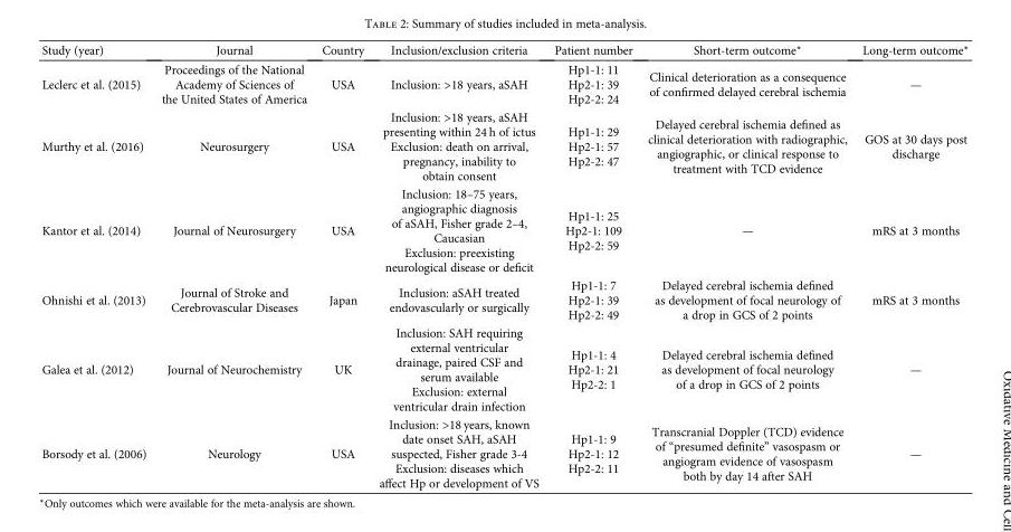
<table><thead><tr><td>Study (year)</td><td>Journal</td><td>Country</td><td>Inclusion/exclusion criteria</td><td>Patient number</td><td>Short-term outcome∗</td><td>Long-term outcome∗</td></tr></thead><tbody><tr><td>Leclerc et al. (2015)</td><td>Proceedings of the National Academy of Sciences of the United States of America</td><td>USA</td><td>Inclusion: &gt;18 years, aSAH</td><td>Hp1-1: 11 Hp2-1: 39 Hp2-2: 24</td><td>Clinical deterioration as a consequence of confirmed delayed cerebral ischemia</td><td>—</td></tr><tr><td>Murthy et al. (2016)</td><td>Neurosurgery</td><td>USA</td><td>Inclusion: &gt;18 years, aSAH presenting within 24 h of ictus Exclusion: death on arrival, pregnancy, inability to obtain consent</td><td>Hp1-1: 29 Hp2-1: 57 Hp2-2: 47</td><td>Delayed cerebral ischemia defined as clinical deterioration with radiographic, angiographic, or clinical response to treatment with TCD evidence</td><td>GOS at 30 days post discharge</td></tr><tr><td>Kantor et al. (2014)</td><td>Journal of Neurosurgery</td><td>USA</td><td>Inclusion: 18–75 years, angiographic diagnosis of aSAH, Fisher grade 2–4, Caucasian Exclusion: preexisting neurological disease or deficit</td><td>Hp1-1: 25 Hp2-1: 109 Hp2-2: 59</td><td>—</td><td>mRS at 3 months</td></tr><tr><td>Ohnishi et al. (2013)</td><td>Journal of Stroke and Cerebrovascular Diseases</td><td>Japan</td><td>Inclusion: aSAH treated endovascularly or surgically</td><td>Hp1-1: 7 Hp2-1: 39 Hp2-2: 49</td><td>Delayed cerebral ischemia defined as development of focal neurology of a drop in GCS of 2 points</td><td>mRS at 3 months</td></tr><tr><td>Galea et al. (2012)</td><td>Journal of Neurochemistry</td><td>UK</td><td>Inclusion: SAH requiring external ventricular drainage, paired CSF and serum available Exclusion: external ventricular drain infection</td><td>Hp1-1: 4 Hp2-1: 21 Hp2-2: 1</td><td>Delayed cerebral ischemia defined as development of focal neurology of a drop in GCS of 2 points</td><td>—</td></tr><tr><td>Borsody et al. (2006)</td><td>Neurology</td><td>USA</td><td>Inclusion: &gt;18 years, known date onset SAH, aSAH suspected, Fisher grade 3-4 Exclusion: diseases which affect Hp or development of VS</td><td>Hp1-1: 9 Hp2-1: 12 Hp2-2: 11</td><td>Transcranial Doppler (TCD) evidence of “presumed definite” vasospasm or angiogram evidence of vasospasm both by day 14 after SAH</td><td>—</td></tr></tbody></table>